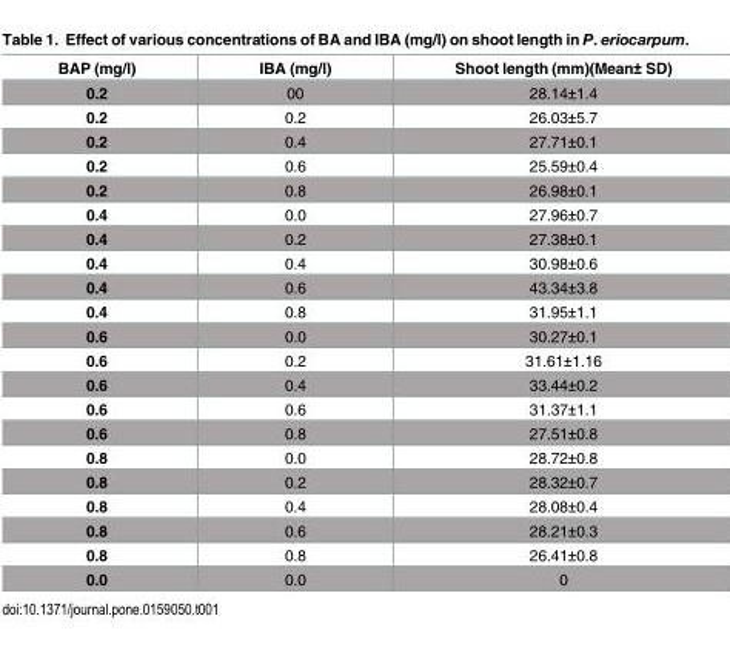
<table><thead><tr><td>BAP (mg/l)</td><td>IBA (mg/l)</td><td>Shoot length (mm)(Mean± SD)</td></tr></thead><tbody><tr><td>0.2</td><td>00</td><td>28.14±1.4</td></tr><tr><td>0.2</td><td>0.2</td><td>26.03±5.7</td></tr><tr><td>0.2</td><td>0.4</td><td>27.71±0.1</td></tr><tr><td>0.2</td><td>0.6</td><td>25.59±0.4</td></tr><tr><td>0.2</td><td>0.8</td><td>26.98±0.1</td></tr><tr><td>0.4</td><td>0.0</td><td>27.96±0.7</td></tr><tr><td>0.4</td><td>0.2</td><td>27.38±0.1</td></tr><tr><td>0.4</td><td>0.4</td><td>30.98±0.6</td></tr><tr><td>0.4</td><td>0.6</td><td>43.34±3.8</td></tr><tr><td>0.4</td><td>0.8</td><td>31.95±1.1</td></tr><tr><td>0.6</td><td>0.0</td><td>30.27±0.1</td></tr><tr><td>0.6</td><td>0.2</td><td>31.61±1.16</td></tr><tr><td>0.6</td><td>0.4</td><td>33.44±0.2</td></tr><tr><td>0.6</td><td>0.6</td><td>31.37±1.1</td></tr><tr><td>0.6</td><td>0.8</td><td>27.51±0.8</td></tr><tr><td>0.8</td><td>0.0</td><td>28.72±0.8</td></tr><tr><td>0.8</td><td>0.2</td><td>28.32±0.7</td></tr><tr><td>0.8</td><td>0.4</td><td>28.08±0.4</td></tr><tr><td>0.8</td><td>0.6</td><td>28.21±0.3</td></tr><tr><td>0.8</td><td>0.8</td><td>26.41±0.8</td></tr><tr><td>0.0</td><td>0.0</td><td>0</td></tr></tbody></table>